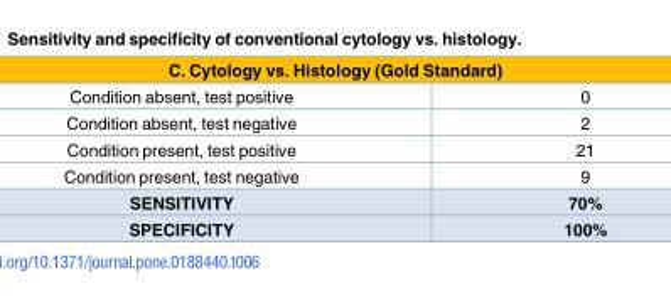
<table><thead><tr><td colspan="2">C. Cytology vs. Histology (Gold Standard)</td></tr><tr><td>Condition absent, test positive</td><td>0</td></tr></thead><tbody><tr><td>Condition absent, test negative</td><td>2</td></tr><tr><td>Condition present, test positive</td><td>21</td></tr><tr><td>Condition present, test negative</td><td>9</td></tr><tr><td>SENSITIVITY</td><td>70%</td></tr><tr><td>SPECIFICITY</td><td>100%</td></tr></tbody></table>